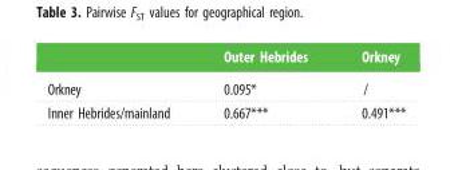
<table><thead><tr><td></td><td>Outer Hebrides</td><td>Orkney</td></tr></thead><tbody><tr><td>Orkney</td><td>0.095*</td><td>/</td></tr><tr><td>Inner Hebrides/mainland</td><td>0.667***</td><td>0.491***</td></tr></tbody></table>